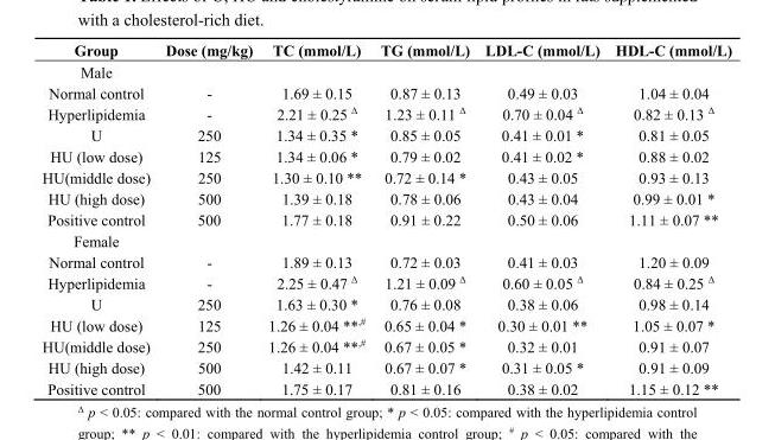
<table><thead><tr><td>Group</td><td>Dose (mg/kg)</td><td>TC (mmol/L)</td><td>TG (mmol/L)</td><td>LDL-C (mmol/L)</td><td>HDL-C (mmol/L)</td></tr></thead><tbody><tr><td colspan="6">Male</td></tr><tr><td>Normal control</td><td>-</td><td>1.69 ± 0.15</td><td>0.87 ± 0.13</td><td>0.49 ± 0.03</td><td>1.04 ± 0.04</td></tr><tr><td>Hyperlipidemia</td><td>-</td><td>2.21 ± 0.25 <sup>Δ</sup></td><td>1.23 ± 0.11 <sup>Δ</sup></td><td>0.70 ± 0.04 <sup>Δ</sup></td><td>0.82 ± 0.13 <sup>Δ</sup></td></tr><tr><td>U</td><td>250</td><td>1.34 ± 0.35 *</td><td>0.85 ± 0.05</td><td>0.41 ± 0.01 *</td><td>0.81 ± 0.05</td></tr><tr><td>HU (low dose)</td><td>125</td><td>1.34 ± 0.06 *</td><td>0.79 ± 0.02</td><td>0.41 ± 0.02 *</td><td>0.88 ± 0.02</td></tr><tr><td>HU(middle dose)</td><td>250</td><td>1.30 ± 0.10 **</td><td>0.72 ± 0.14 *</td><td>0.43 ± 0.05</td><td>0.93 ± 0.13</td></tr><tr><td>HU (high dose)</td><td>500</td><td>1.39 ± 0.18</td><td>0.78 ± 0.06</td><td>0.43 ± 0.04</td><td>0.99 ± 0.01 *</td></tr><tr><td>Positive control</td><td>500</td><td>1.77 ± 0.18</td><td>0.91 ± 0.22</td><td>0.50 ± 0.06</td><td>1.11 ± 0.07 **</td></tr><tr><td colspan="6">Female</td></tr><tr><td>Normal control</td><td>-</td><td>1.89 ± 0.13</td><td>0.72 ± 0.03</td><td>0.41 ± 0.03</td><td>1.20 ± 0.09</td></tr><tr><td>Hyperlipidemia</td><td>-</td><td>2.25 ± 0.47 <sup>Δ</sup></td><td>1.21 ± 0.09 <sup>Δ</sup></td><td>0.60 ± 0.05 <sup>Δ</sup></td><td>0.84 ± 0.25 <sup>Δ</sup></td></tr><tr><td>U</td><td>250</td><td>1.63 ± 0.30 *</td><td>0.76 ± 0.08</td><td>0.38 ± 0.06</td><td>0.98 ± 0.14</td></tr><tr><td>HU (low dose)</td><td>125</td><td>1.26 ± 0.04 **<sup>,#</sup></td><td>0.65 ± 0.04 *</td><td>0.30 ± 0.01 **</td><td>1.05 ± 0.07 *</td></tr><tr><td>HU(middle dose)</td><td>250</td><td>1.26 ± 0.04 **<sup>,#</sup></td><td>0.67 ± 0.05 *</td><td>0.32 ± 0.01</td><td>0.91 ± 0.07</td></tr><tr><td>HU (high dose)</td><td>500</td><td>1.42 ± 0.11</td><td>0.67 ± 0.07 *</td><td>0.31 ± 0.05 *</td><td>0.91 ± 0.09</td></tr><tr><td>Positive control</td><td>500</td><td>1.75 ± 0.17</td><td>0.81 ± 0.16</td><td>0.38 ± 0.02</td><td>1.15 ± 0.12 **</td></tr></tbody></table>